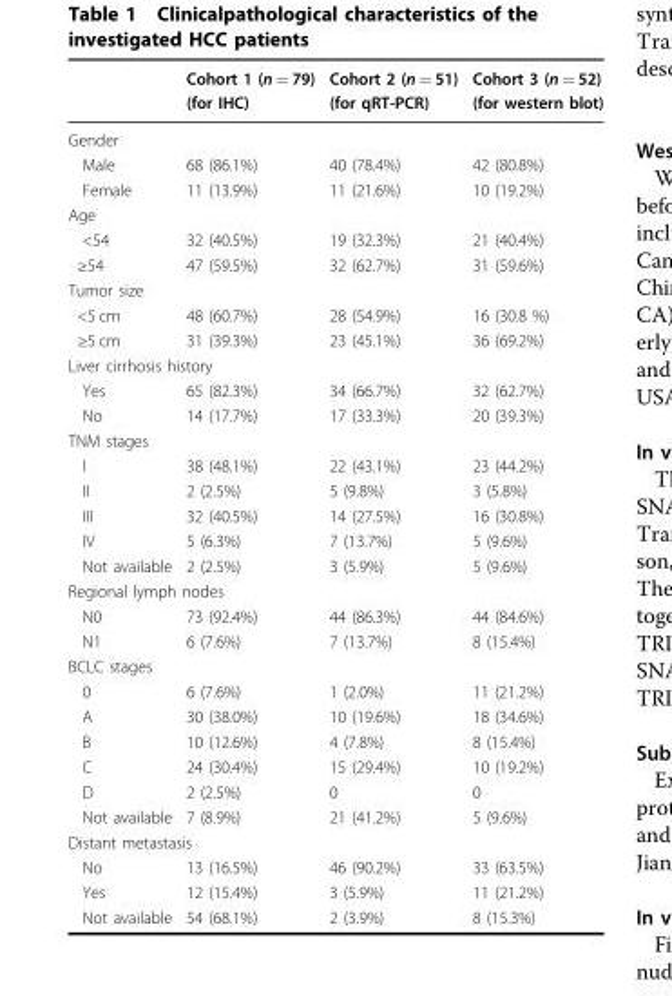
<table><thead><tr><td rowspan="2"></td><td rowspan="2">Cohort 1 (n = 79) (for IHC)</td><td rowspan="2">Cohort 2 (n = 51) (for qRT-PCR)</td><td rowspan="2">Cohort 3 (n = 52) (for western blot)</td></tr><tr></tr></thead><tbody><tr><td colspan="4">Gender</td></tr><tr><td>Male</td><td>68 (86.1%)</td><td>40 (78.4%)</td><td>42 (80.8%)</td></tr><tr><td>Female</td><td>11 (13.9%)</td><td>11 (21.6%)</td><td>10 (19.2%)</td></tr><tr><td colspan="4">Age</td></tr><tr><td>&lt;54</td><td>32 (40.5%)</td><td>19 (32.3%)</td><td>21 (40.4%)</td></tr><tr><td>≥54</td><td>47 (59.5%)</td><td>32 (62.7%)</td><td>31 (59.6%)</td></tr><tr><td colspan="4">Tumor size</td></tr><tr><td>&lt;5 cm</td><td>48 (60.7%)</td><td>28 (54.9%)</td><td>16 (30.8 %)</td></tr><tr><td>≥5 cm</td><td>31 (39.3%)</td><td>23 (45.1%)</td><td>36 (69.2%)</td></tr><tr><td colspan="4">Liver cirrhosis history</td></tr><tr><td>Yes</td><td>65 (82.3%)</td><td>34 (66.7%)</td><td>32 (62.7%)</td></tr><tr><td>No</td><td>14 (17.7%)</td><td>17 (33.3%)</td><td>20 (39.3%)</td></tr><tr><td colspan="4">TNM stages</td></tr><tr><td>I</td><td>38 (48.1%)</td><td>22 (43.1%)</td><td>23 (44.2%)</td></tr><tr><td>II</td><td>2 (2.5%)</td><td>5 (9.8%)</td><td>3 (5.8%)</td></tr><tr><td>III</td><td>32 (40.5%)</td><td>14 (27.5%)</td><td>16 (30.8%)</td></tr><tr><td>IV</td><td>5 (6.3%)</td><td>7 (13.7%)</td><td>5 (9.6%)</td></tr><tr><td>Not available</td><td>2 (2.5%)</td><td>3 (5.9%)</td><td>5 (9.6%)</td></tr><tr><td colspan="4">Regional lymph nodes</td></tr><tr><td>N0</td><td>73 (92.4%)</td><td>44 (86.3%)</td><td>44 (84.6%)</td></tr><tr><td>N1</td><td>6 (7.6%)</td><td>7 (13.7%)</td><td>8 (15.4%)</td></tr><tr><td colspan="4">BCLC stages</td></tr><tr><td>0</td><td>6 (7.6%)</td><td>1 (2.0%)</td><td>11 (21.2%)</td></tr><tr><td>A</td><td>30 (38.0%)</td><td>10 (19.6%)</td><td>18 (34.6%)</td></tr><tr><td>B</td><td>10 (12.6%)</td><td>4 (7.8%)</td><td>8 (15.4%)</td></tr><tr><td>C</td><td>24 (30.4%)</td><td>15 (29.4%)</td><td>10 (19.2%)</td></tr><tr><td>D</td><td>2 (2.5%)</td><td>0</td><td>0</td></tr><tr><td>Not available</td><td>7 (8.9%)</td><td>21 (41.2%)</td><td>5 (9.6%)</td></tr><tr><td colspan="4">Distant metastasis</td></tr><tr><td>No</td><td>13 (16.5%)</td><td>46 (90.2%)</td><td>33 (63.5%)</td></tr><tr><td>Yes</td><td>12 (15.4%)</td><td>3 (5.9%)</td><td>11 (21.2%)</td></tr><tr><td>Not available</td><td>54 (68.1%)</td><td>2 (3.9%)</td><td>8 (15.3%)</td></tr></tbody></table>